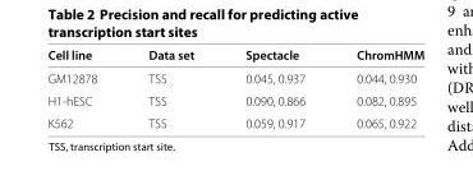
<table><thead><tr><td>Cell line</td><td>Data set</td><td>Spectacle</td><td>ChromHMM</td></tr></thead><tbody><tr><td>GM12878</td><td>TSS</td><td>0.045, 0.937</td><td>0.044, 0.930</td></tr><tr><td>H1-hESC</td><td>TSS</td><td>0.090, 0.866</td><td>0.082, 0.895</td></tr><tr><td>K562</td><td>TSS</td><td>0.059, 0.917</td><td>0.065, 0.922</td></tr></tbody></table>